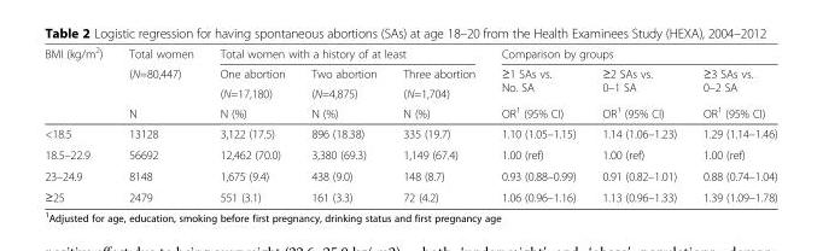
<table><thead><tr><td rowspan="4">BMI (kg/m<sup>2</sup>)</td><td rowspan="4">Total women (N=80,447) N</td><td colspan="3">Total women with a history of at least</td><td colspan="3">Comparison by groups</td></tr><tr><td rowspan="3">One abortion (N=17,180) N (%)</td><td rowspan="3">Two abortion (N=4,875) N (%)</td><td rowspan="3">Three abortion (N=1,704) N (%)</td><td rowspan="3">≥1 SAs vs. No. SA OR<sup>1</sup> (95% CI)</td><td rowspan="3">≥2 SAs vs. 0–1 SA OR<sup>1</sup> (95% CI)</td><td rowspan="3">≥3 SAs vs. 0–2 SA OR<sup>1</sup> (95% CI)</td></tr><tr></tr><tr></tr></thead><tbody><tr><td>&lt;18.5</td><td>13128</td><td>3,122 (17.5)</td><td>896 (18.38)</td><td>335 (19.7)</td><td>1.10 (1.05–1.15)</td><td>1.14 (1.06–1.23)</td><td>1.29 (1.14–1.46)</td></tr><tr><td>18.5–22.9</td><td>56692</td><td>12,462 (70.0)</td><td>3,380 (69.3)</td><td>1,149 (67.4)</td><td>1.00 (ref)</td><td>1.00 (ref)</td><td>1.00 (ref)</td></tr><tr><td>23–24.9</td><td>8148</td><td>1,675 (9.4)</td><td>438 (9.0)</td><td>148 (8.7)</td><td>0.93 (0.88–0.99)</td><td>0.91 (0.82–1.01)</td><td>0.88 (0.74–1.04)</td></tr><tr><td>≥25</td><td>2479</td><td>551 (3.1)</td><td>161 (3.3)</td><td>72 (4.2)</td><td>1.06 (0.96–1.16)</td><td>1.13 (0.96–1.33)</td><td>1.39 (1.09–1.78)</td></tr></tbody></table>